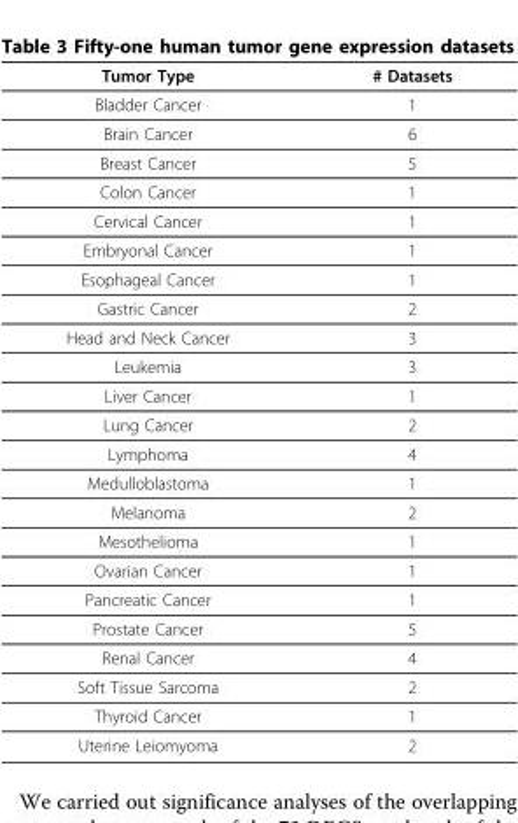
<table><thead><tr><td>Tumor Type</td><td># Datasets</td></tr></thead><tbody><tr><td>Bladder Cancer</td><td>1</td></tr><tr><td>Brain Cancer</td><td>6</td></tr><tr><td>Breast Cancer</td><td>5</td></tr><tr><td>Colon Cancer</td><td>1</td></tr><tr><td>Cervical Cancer</td><td>1</td></tr><tr><td>Embryonal Cancer</td><td>1</td></tr><tr><td>Esophageal Cancer</td><td>1</td></tr><tr><td>Gastric Cancer</td><td>2</td></tr><tr><td>Head and Neck Cancer</td><td>3</td></tr><tr><td>Leukemia</td><td>3</td></tr><tr><td>Liver Cancer</td><td>1</td></tr><tr><td>Lung Cancer</td><td>2</td></tr><tr><td>Lymphoma</td><td>4</td></tr><tr><td>Medulloblastoma</td><td>1</td></tr><tr><td>Melanoma</td><td>2</td></tr><tr><td>Mesothelioma</td><td>1</td></tr><tr><td>Ovarian Cancer</td><td>1</td></tr><tr><td>Pancreatic Cancer</td><td>1</td></tr><tr><td>Prostate Cancer</td><td>5</td></tr><tr><td>Renal Cancer</td><td>4</td></tr><tr><td>Soft Tissue Sarcoma</td><td>2</td></tr><tr><td>Thyroid Cancer</td><td>1</td></tr><tr><td>Uterine Leiomyoma</td><td>2</td></tr></tbody></table>